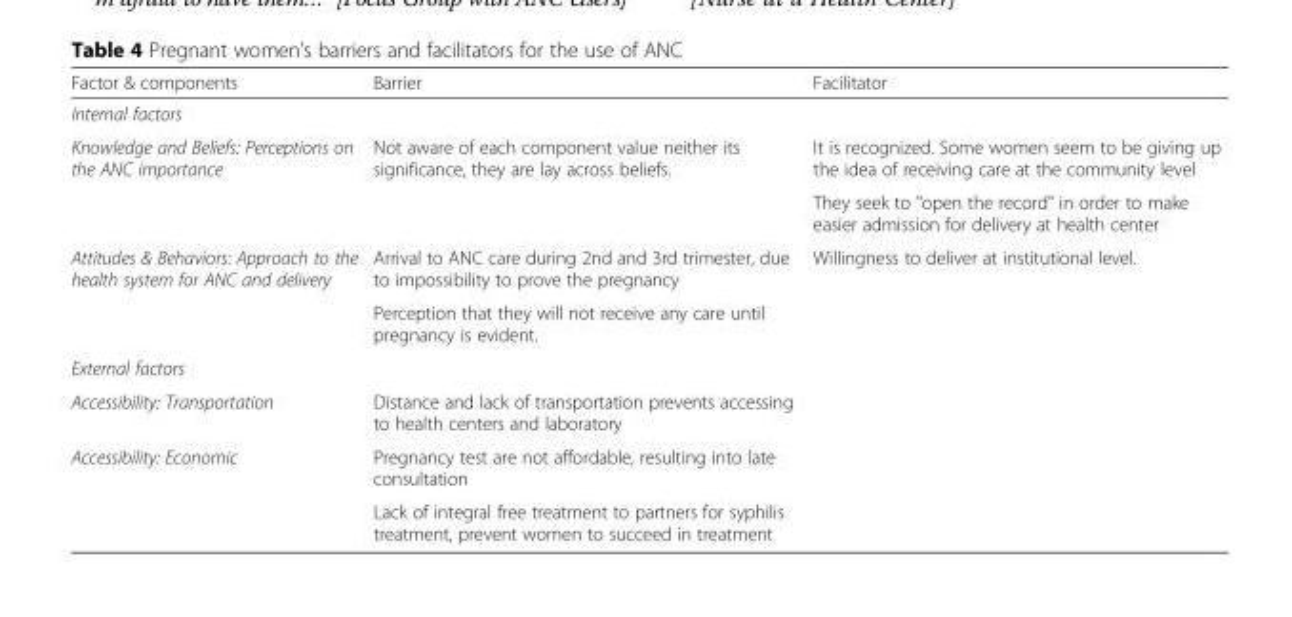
<table><thead><tr><td>Factor &amp; components</td><td>Barrier</td><td>Facilitator</td></tr></thead><tbody><tr><td colspan="3">Internal factors</td></tr><tr><td rowspan="2">Knowledge and Beliefs: Perceptions on the ANC importance</td><td>Not aware of each component value neither its significance, they are lay across beliefs.</td><td>It is recognized. Some women seem to be giving up the idea of receiving care at the community level</td></tr><tr><td></td><td>They seek to &quot;open the record&quot; in order to make easier admission for delivery at health center</td></tr><tr><td rowspan="2">Attitudes &amp; Behaviors: Approach to the health system for ANC and delivery</td><td>Arrival to ANC care during 2nd and 3rd trimester, due to impossibility to prove the pregnancy</td><td>Willingness to deliver at institutional level.</td></tr><tr><td>Perception that they will not receive any care until pregnancy is evident.</td><td></td></tr><tr><td colspan="3">External factors</td></tr><tr><td>Accessibility: Transportation</td><td>Distance and lack of transportation prevents accessing to health centers and laboratory</td><td></td></tr><tr><td rowspan="2">Accessibility: Economic</td><td>Pregnancy test are not affordable, resulting into late consultation</td><td></td></tr><tr><td>Lack of integral free treatment to partners for syphilis treatment, prevent women to succeed in treatment</td><td></td></tr></tbody></table>